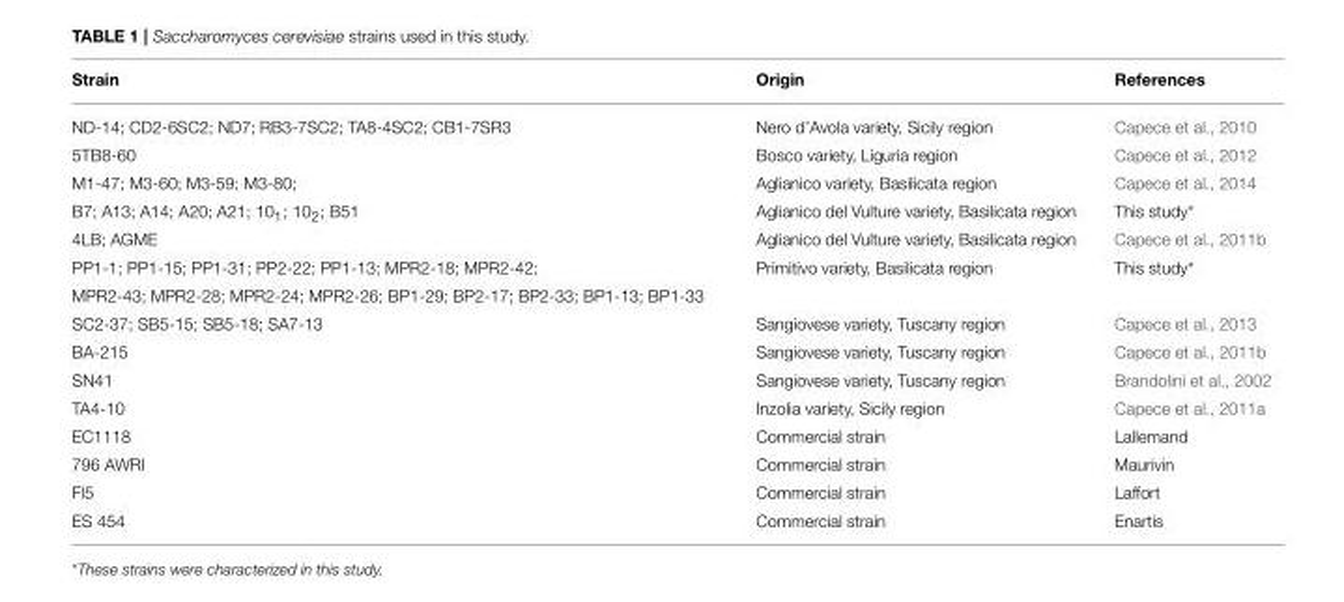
<table><thead><tr><td>Strain</td><td>Origin</td><td>References</td></tr></thead><tbody><tr><td>ND-14; CD2-6SC2; ND7; RB3-7SC2; TA8-4SC2; CB1-7SR3</td><td>Nero d’Avola variety, Sicily region</td><td>Capece et al., 2010</td></tr><tr><td>5TB8-60</td><td>Bosco variety, Liguria region</td><td>Capece et al., 2012</td></tr><tr><td>M1-47; M3-60; M3-59; M3-80;</td><td>Aglianico variety, Basilicata region</td><td>Capece et al., 2014</td></tr><tr><td>B7; A13; A14; A20; A21; 10<sub>1</sub>; 10<sub>2</sub>; B51</td><td>Aglianico del Vulture variety, Basilicata region</td><td>This study*</td></tr><tr><td>4LB; AGME</td><td>Aglianico del Vulture variety, Basilicata region</td><td>Capece et al., 2011b</td></tr><tr><td>PP1-1; PP1-15; PP1-31; PP2-22; PP1-13; MPR2-18; MPR2-42;</td><td>Primitivo variety, Basilicata region</td><td>This study*</td></tr><tr><td colspan="3">MPR2-43; MPR2-28; MPR2-24; MPR2-26; BP1-29; BP2-17; BP2-33; BP1-13; BP1-33</td></tr><tr><td>SC2-37; SB5-15; SB5-18; SA7-13</td><td>Sangiovese variety, Tuscany region</td><td>Capece et al., 2013</td></tr><tr><td>BA-215</td><td>Sangiovese variety, Tuscany region</td><td>Capece et al., 2011b</td></tr><tr><td>SN41</td><td>Sangiovese variety, Tuscany region</td><td>Brandolini et al., 2002</td></tr><tr><td>TA4-10</td><td>Inzolia variety, Sicily region</td><td>Capece et al., 2011a</td></tr><tr><td>EC1118</td><td>Commercial strain</td><td>Lallemand</td></tr><tr><td>796 AWRI</td><td>Commercial strain</td><td>Maurivin</td></tr><tr><td>FI5</td><td>Commercial strain</td><td>Laffort</td></tr><tr><td>ES 454</td><td>Commercial strain</td><td>Enartis</td></tr></tbody></table>